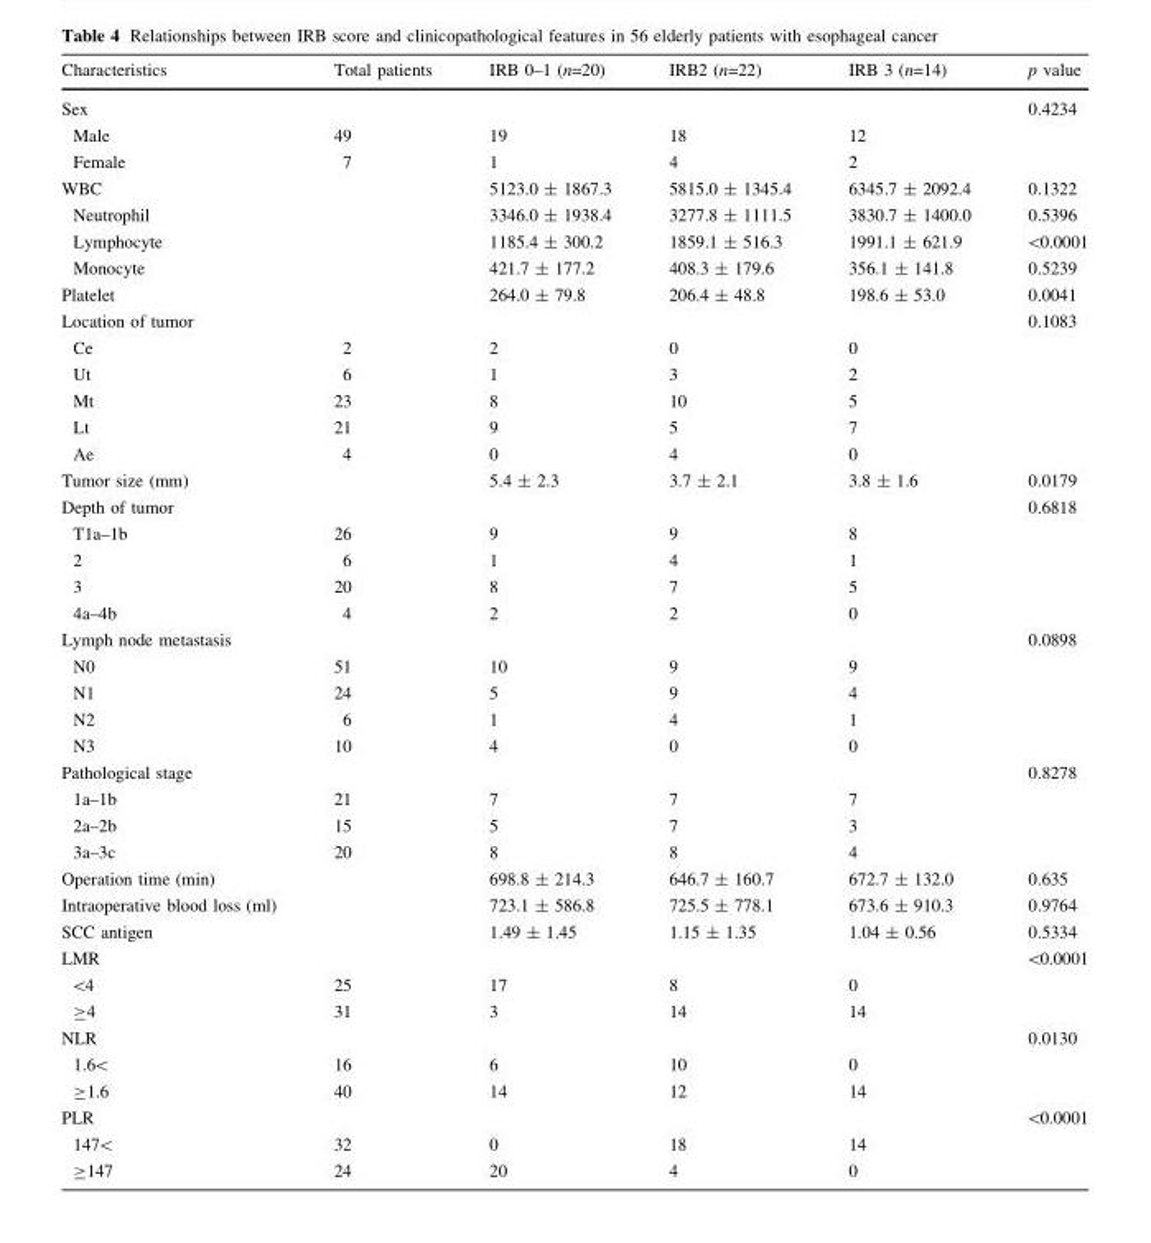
<table><thead><tr><td>Characteristics</td><td>Total patients</td><td>IRB 0–1 (n=20)</td><td>IRB2 (n=22)</td><td>IRB 3 (n=14)</td><td>p value</td></tr></thead><tbody><tr><td>Sex</td><td></td><td></td><td></td><td></td><td>0.4234</td></tr><tr><td>Male</td><td>49</td><td>19</td><td>18</td><td>12</td><td></td></tr><tr><td>Female</td><td>7</td><td>1</td><td>4</td><td>2</td><td></td></tr><tr><td>WBC</td><td></td><td>5123.0 ± 1867.3</td><td>5815.0 ± 1345.4</td><td>6345.7 ± 2092.4</td><td>0.1322</td></tr><tr><td>Neutrophil</td><td></td><td>3346.0 ± 1938.4</td><td>3277.8 ± 1111.5</td><td>3830.7 ± 1400.0</td><td>0.5396</td></tr><tr><td>Lymphocyte</td><td></td><td>1185.4 ± 300.2</td><td>1859.1 ± 516.3</td><td>1991.1 ± 621.9</td><td>&lt;0.0001</td></tr><tr><td>Monocyte</td><td></td><td>421.7 ± 177.2</td><td>408.3 ± 179.6</td><td>356.1 ± 141.8</td><td>0.5239</td></tr><tr><td>Platelet</td><td></td><td>264.0 ± 79.8</td><td>206.4 ± 48.8</td><td>198.6 ± 53.0</td><td>0.0041</td></tr><tr><td>Location of tumor</td><td></td><td></td><td></td><td></td><td>0.1083</td></tr><tr><td>Ce</td><td>2</td><td>2</td><td>0</td><td>0</td><td></td></tr><tr><td>Ut</td><td>6</td><td>1</td><td>3</td><td>2</td><td></td></tr><tr><td>Mt</td><td>23</td><td>8</td><td>10</td><td>5</td><td></td></tr><tr><td>Lt</td><td>21</td><td>9</td><td>5</td><td>7</td><td></td></tr><tr><td>Ae</td><td>4</td><td>0</td><td>4</td><td>0</td><td></td></tr><tr><td>Tumor size (mm)</td><td></td><td>5.4 ± 2.3</td><td>3.7 ± 2.1</td><td>3.8 ± 1.6</td><td>0.0179</td></tr><tr><td>Depth of tumor</td><td></td><td></td><td></td><td></td><td>0.6818</td></tr><tr><td>T1a–1b</td><td>26</td><td>9</td><td>9</td><td>8</td><td></td></tr><tr><td>2</td><td>6</td><td>1</td><td>4</td><td>1</td><td></td></tr><tr><td>3</td><td>20</td><td>8</td><td>7</td><td>5</td><td></td></tr><tr><td>4a–4b</td><td>4</td><td>2</td><td>2</td><td>0</td><td></td></tr><tr><td>Lymph node metastasis</td><td></td><td></td><td></td><td></td><td>0.0898</td></tr><tr><td>N0</td><td>51</td><td>10</td><td>9</td><td>9</td><td></td></tr><tr><td>N1</td><td>24</td><td>5</td><td>9</td><td>4</td><td></td></tr><tr><td>N2</td><td>6</td><td>1</td><td>4</td><td>1</td><td></td></tr><tr><td>N3</td><td>10</td><td>4</td><td>0</td><td>0</td><td></td></tr><tr><td>Pathological stage</td><td></td><td></td><td></td><td></td><td>0.8278</td></tr><tr><td>1a–1b</td><td>21</td><td>7</td><td>7</td><td>7</td><td></td></tr><tr><td>2a–2b</td><td>15</td><td>5</td><td>7</td><td>3</td><td></td></tr><tr><td>3a–3c</td><td>20</td><td>8</td><td>8</td><td>4</td><td></td></tr><tr><td>Operation time (min)</td><td></td><td>698.8 ± 214.3</td><td>646.7 ± 160.7</td><td>672.7 ± 132.0</td><td>0.635</td></tr><tr><td>Intraoperative blood loss (ml)</td><td></td><td>723.1 ± 586.8</td><td>725.5 ± 778.1</td><td>673.6 ± 910.3</td><td>0.9764</td></tr><tr><td>SCC antigen</td><td></td><td>1.49 ± 1.45</td><td>1.15 ± 1.35</td><td>1.04 ± 0.56</td><td>0.5334</td></tr><tr><td>LMR</td><td></td><td></td><td></td><td></td><td>&lt;0.0001</td></tr><tr><td>&lt;4</td><td>25</td><td>17</td><td>8</td><td>0</td><td></td></tr><tr><td>≥4</td><td>31</td><td>3</td><td>14</td><td>14</td><td></td></tr><tr><td>NLR</td><td></td><td></td><td></td><td></td><td>0.0130</td></tr><tr><td>1.6&lt;</td><td>16</td><td>6</td><td>10</td><td>0</td><td></td></tr><tr><td>≥1.6</td><td>40</td><td>14</td><td>12</td><td>14</td><td></td></tr><tr><td>PLR</td><td></td><td></td><td></td><td></td><td>&lt;0.0001</td></tr><tr><td>147&lt;</td><td>32</td><td>0</td><td>18</td><td>14</td><td></td></tr><tr><td>≥147</td><td>24</td><td>20</td><td>4</td><td>0</td><td></td></tr></tbody></table>